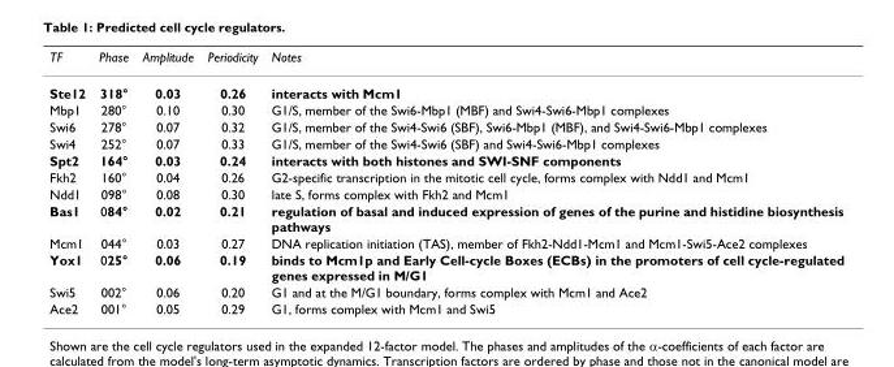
<table><thead><tr><td>TF</td><td>Phase</td><td>Amplitude</td><td>Periodicity</td><td>Notes</td></tr></thead><tbody><tr><td>Ste12</td><td>318°</td><td>0.03</td><td>0.26</td><td>interacts with Mcm1</td></tr><tr><td>Mbp1</td><td>280°</td><td>0.10</td><td>0.30</td><td>G1/S, member of the Swi6-Mbp1 (MBF) and Swi4-Swi6-Mbp1 complexes</td></tr><tr><td>Swi6</td><td>278°</td><td>0.07</td><td>0.32</td><td>G1/S, member of the Swi4-Swi6 (SBF), Swi6-Mbp1 (MBF), and Swi4-Swi6-Mbp1 complexes</td></tr><tr><td>Swi4</td><td>252°</td><td>0.07</td><td>0.33</td><td>G1/S, member of the Swi4-Swi6 (SBF) and Swi4-Swi6-Mbp1 complexes</td></tr><tr><td>Spt2</td><td>164°</td><td>0.03</td><td>0.24</td><td>interacts with both histones and SWI-SNF components</td></tr><tr><td>Fkh2</td><td>160°</td><td>0.04</td><td>0.26</td><td>G2-specific transcription in the mitotic cell cycle, forms complex with Ndd1 and Mcm1</td></tr><tr><td>Ndd1</td><td>098°</td><td>0.08</td><td>0.30</td><td>late S, forms complex with Fkh2 and Mcm1</td></tr><tr><td>Bas1</td><td>084°</td><td>0.02</td><td>0.21</td><td>regulation of basal and induced expression of genes of the purine and histidine biosynthesis pathways</td></tr><tr><td>Mcm1</td><td>044°</td><td>0.03</td><td>0.27</td><td>DNA replication initiation (TAS), member of Fkh2-Ndd1-Mcm1 and Mcm1-Swi5-Ace2 complexes</td></tr><tr><td>Yox1</td><td>025°</td><td>0.06</td><td>0.19</td><td>binds to Mcm1p and Early Cell-cycle Boxes (ECBs) in the promoters of cell cycle-regulated genes expressed in M/G1</td></tr><tr><td>Swi5</td><td>002°</td><td>0.06</td><td>0.20</td><td>G1 and at the M/G1 boundary, forms complex with Mcm1 and Ace2</td></tr><tr><td>Ace2</td><td>001°</td><td>0.05</td><td>0.29</td><td>G1, forms complex with Mcm1 and Swi5</td></tr></tbody></table>